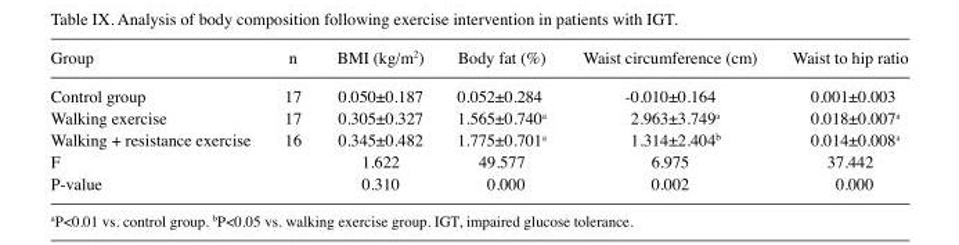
<table><thead><tr><td>Group</td><td>n</td><td>BMI (kg/m<sup>2</sup>)</td><td>Body fat (﹪)</td><td>Waist circumference (cm)</td><td>Waist to hip ratio</td></tr></thead><tbody><tr><td>Control group</td><td>17</td><td>0.050±0.187</td><td>0.052±0.284</td><td>-0.010±0.164</td><td>0.001±0.003</td></tr><tr><td>Walking exercise</td><td>17</td><td>0.305±0.327</td><td>1.565±0.740<sup>a</sup></td><td>2.963±3.749<sup>a</sup></td><td>0.018±0.007<sup>a</sup></td></tr><tr><td>Walking + resistance exercise</td><td>16</td><td>0.345±0.482</td><td>1.775±0.701<sup>a</sup></td><td>1.314±2.404<sup>b</sup></td><td>0.014±0.008<sup>a</sup></td></tr><tr><td>F</td><td></td><td>1.622</td><td>49.577</td><td>6.975</td><td>37.442</td></tr><tr><td>P-value</td><td></td><td>0.310</td><td>0.000</td><td>0.002</td><td>0.000</td></tr></tbody></table>